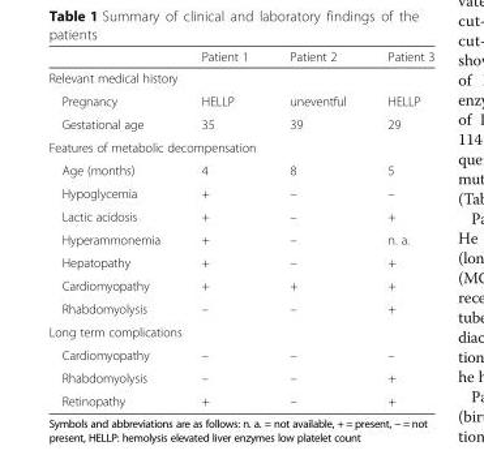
<table><thead><tr><td></td><td>Patient 1</td><td>Patient 2</td><td>Patient 3</td></tr></thead><tbody><tr><td colspan="4">Relevant medical history</td></tr><tr><td>Pregnancy</td><td>HELLP</td><td>uneventful</td><td>HELLP</td></tr><tr><td>Gestational age</td><td>35</td><td>39</td><td>29</td></tr><tr><td colspan="4">Features of metabolic decompensation</td></tr><tr><td>Age (months)</td><td>4</td><td>8</td><td>5</td></tr><tr><td>Hypoglycemia</td><td>+</td><td>–</td><td>–</td></tr><tr><td>Lactic acidosis</td><td>+</td><td>–</td><td>+</td></tr><tr><td>Hyperammonemia</td><td>+</td><td>–</td><td>n. a.</td></tr><tr><td>Hepatopathy</td><td>+</td><td>–</td><td>+</td></tr><tr><td>Cardiomyopathy</td><td>+</td><td>+</td><td>+</td></tr><tr><td>Rhabdomyolysis</td><td>–</td><td>–</td><td>+</td></tr><tr><td colspan="4">Long term complications</td></tr><tr><td>Cardiomyopathy</td><td>–</td><td>–</td><td>–</td></tr><tr><td>Rhabdomyolysis</td><td>–</td><td>–</td><td>+</td></tr><tr><td>Retinopathy</td><td>+</td><td>–</td><td>+</td></tr></tbody></table>